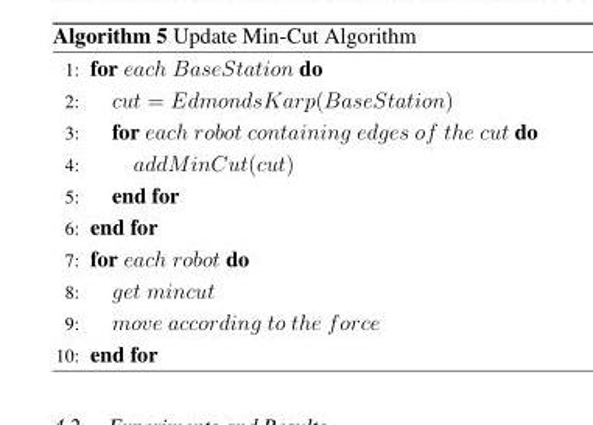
<table><tbody><tr><td>1:</td><td>for each BaseStation do</td></tr><tr><td>2:</td><td>cut = EdmondsKarp(BaseStation)</td></tr><tr><td>3:</td><td>for each robot containing edges of the cut do</td></tr><tr><td>4:</td><td>addMinCut(cut)</td></tr><tr><td>5:</td><td>end for</td></tr><tr><td>6:</td><td>end for</td></tr><tr><td>7:</td><td>for each robot do</td></tr><tr><td>8:</td><td>get mincut</td></tr><tr><td>9:</td><td>move according to the force</td></tr><tr><td>10:</td><td>end for</td></tr></tbody></table>